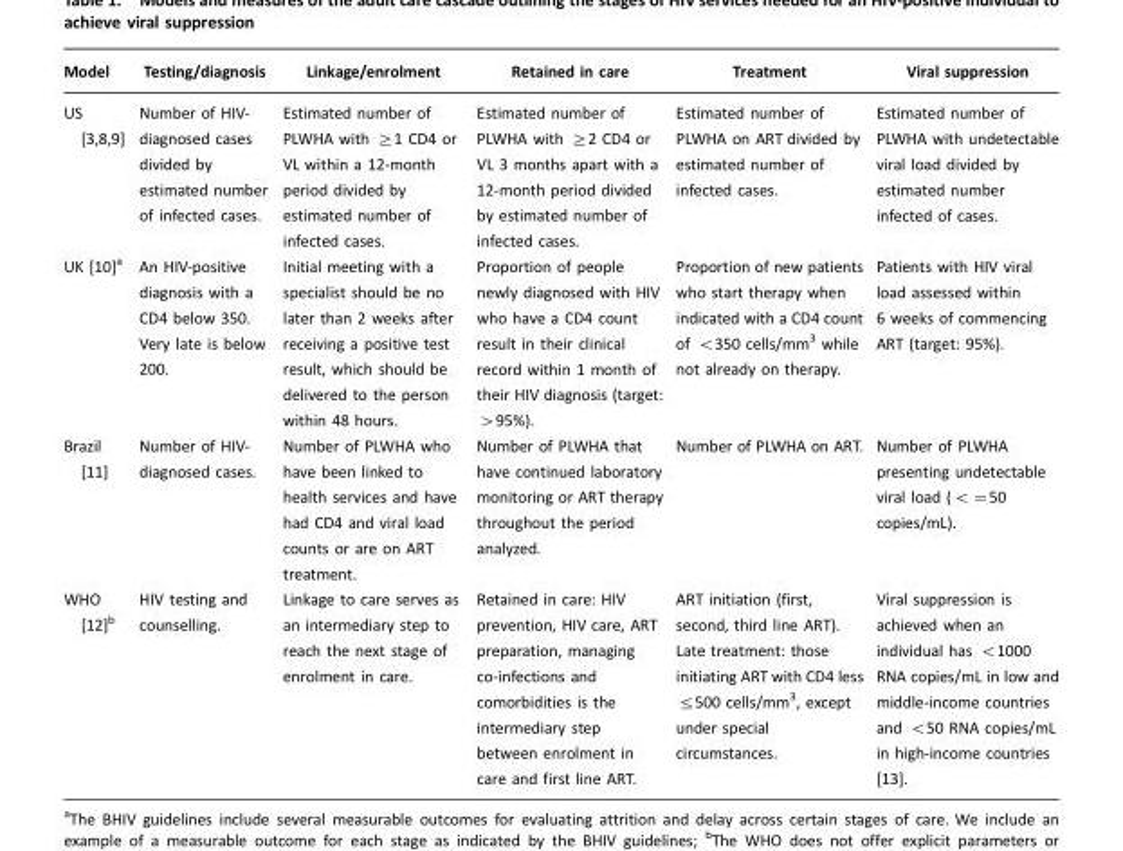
<table><thead><tr><td>Model</td><td>Testing/diagnosis</td><td>Linkage/enrolment</td><td>Retained in care</td><td>Treatment</td><td>Viral suppression</td></tr></thead><tbody><tr><td>US [3,8,9]</td><td>Number of HIV- diagnosed cases divided by estimated number of infected cases.</td><td>Estimated number of PLWHA with ≥1 CD4 or VL within a 12-month period divided by estimated number of infected cases.</td><td>Estimated number of PLWHA with ≥2 CD4 or VL 3 months apart with a 12-month period divided by estimated number of infected cases.</td><td>Estimated number of PLWHA on ART divided by estimated number of infected cases.</td><td>Estimated number of PLWHA with undetectable viral load divided by estimated number infected of cases.</td></tr><tr><td>UK [10]<sup>a</sup></td><td>An HIV-positive diagnosis with a CD4 below 350. Very late is below 200.</td><td>Initial meeting with a specialist should be no later than 2 weeks after receiving a positive test result, which should be delivered to the person within 48 hours.</td><td>Proportion of people newly diagnosed with HIV who have a CD4 count result in their clinical record within 1 month of their HIV diagnosis (target: &gt;95%).</td><td>Proportion of new patients who start therapy when indicated with a CD4 count of &lt;350 cells/mm<sup>3</sup> while not already on therapy.</td><td>Patients with HIV viral load assessed within 6 weeks of commencing ART (target: 95%).</td></tr><tr><td>Brazil [11]</td><td>Number of HIV- diagnosed cases.</td><td>Number of PLWHA who have been linked to health services and have had CD4 and viral load counts or are on ART treatment.</td><td>Number of PLWHA that have continued laboratory monitoring or ART therapy throughout the period analyzed.</td><td>Number of PLWHA on ART.</td><td>Number of PLWHA presenting undetectable viral load (&lt;=50 copies/mL).</td></tr><tr><td>WHO [12]<sup>b</sup></td><td>HIV testing and counselling.</td><td>Linkage to care serves as an intermediary step to reach the next stage of enrolment in care.</td><td>Retained in care: HIV prevention, HIV care, ART preparation, managing co-infections and comorbidities is the intermediary step between enrolment in care and first line ART.</td><td>ART initiation (first, second, third line ART). Late treatment: those initiating ART with CD4 less ≤500 cells/mm<sup>3</sup>, except under special circumstances.</td><td>Viral suppression is achieved when an individual has &lt;1000 RNA copies/mL in low and middle-income countries and &lt;50 RNA copies/mL in high-income countries [13].</td></tr></tbody></table>